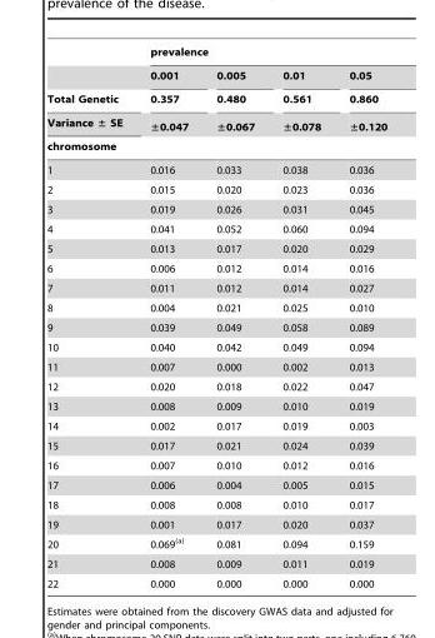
<table><thead><tr><td rowspan="5">Total Genetic Variance ± SE chromosome</td><td colspan="4">prevalence</td></tr><tr><td rowspan="4">0.001 0.357 ±0.047</td><td rowspan="4">0.005 0.480 ±0.067</td><td rowspan="4">0.01 0.561 ±0.078</td><td rowspan="4">0.05 0.860 ±0.120</td></tr><tr></tr><tr></tr><tr></tr></thead><tbody><tr><td>1</td><td>0.016</td><td>0.033</td><td>0.038</td><td>0.036</td></tr><tr><td>2</td><td>0.015</td><td>0.020</td><td>0.023</td><td>0.036</td></tr><tr><td>3</td><td>0.019</td><td>0.026</td><td>0.031</td><td>0.045</td></tr><tr><td>4</td><td>0.041</td><td>0.052</td><td>0.060</td><td>0.094</td></tr><tr><td>5</td><td>0.013</td><td>0.017</td><td>0.020</td><td>0.029</td></tr><tr><td>6</td><td>0.006</td><td>0.012</td><td>0.014</td><td>0.016</td></tr><tr><td>7</td><td>0.011</td><td>0.012</td><td>0.014</td><td>0.027</td></tr><tr><td>8</td><td>0.004</td><td>0.021</td><td>0.025</td><td>0.010</td></tr><tr><td>9</td><td>0.039</td><td>0.049</td><td>0.058</td><td>0.089</td></tr><tr><td>10</td><td>0.040</td><td>0.042</td><td>0.049</td><td>0.094</td></tr><tr><td>11</td><td>0.007</td><td>0.000</td><td>0.002</td><td>0.013</td></tr><tr><td>12</td><td>0.020</td><td>0.018</td><td>0.022</td><td>0.047</td></tr><tr><td>13</td><td>0.008</td><td>0.009</td><td>0.010</td><td>0.019</td></tr><tr><td>14</td><td>0.002</td><td>0.017</td><td>0.019</td><td>0.003</td></tr><tr><td>15</td><td>0.017</td><td>0.021</td><td>0.024</td><td>0.039</td></tr><tr><td>16</td><td>0.007</td><td>0.010</td><td>0.012</td><td>0.016</td></tr><tr><td>17</td><td>0.006</td><td>0.004</td><td>0.005</td><td>0.015</td></tr><tr><td>18</td><td>0.008</td><td>0.008</td><td>0.010</td><td>0.017</td></tr><tr><td>19</td><td>0.001</td><td>0.017</td><td>0.020</td><td>0.037</td></tr><tr><td>20</td><td>0.069(a)</td><td>0.081</td><td>0.094</td><td>0.159</td></tr><tr><td>21</td><td>0.008</td><td>0.009</td><td>0.011</td><td>0.019</td></tr><tr><td>22</td><td>0.000</td><td>0.000</td><td>0.000</td><td>0.000</td></tr></tbody></table>